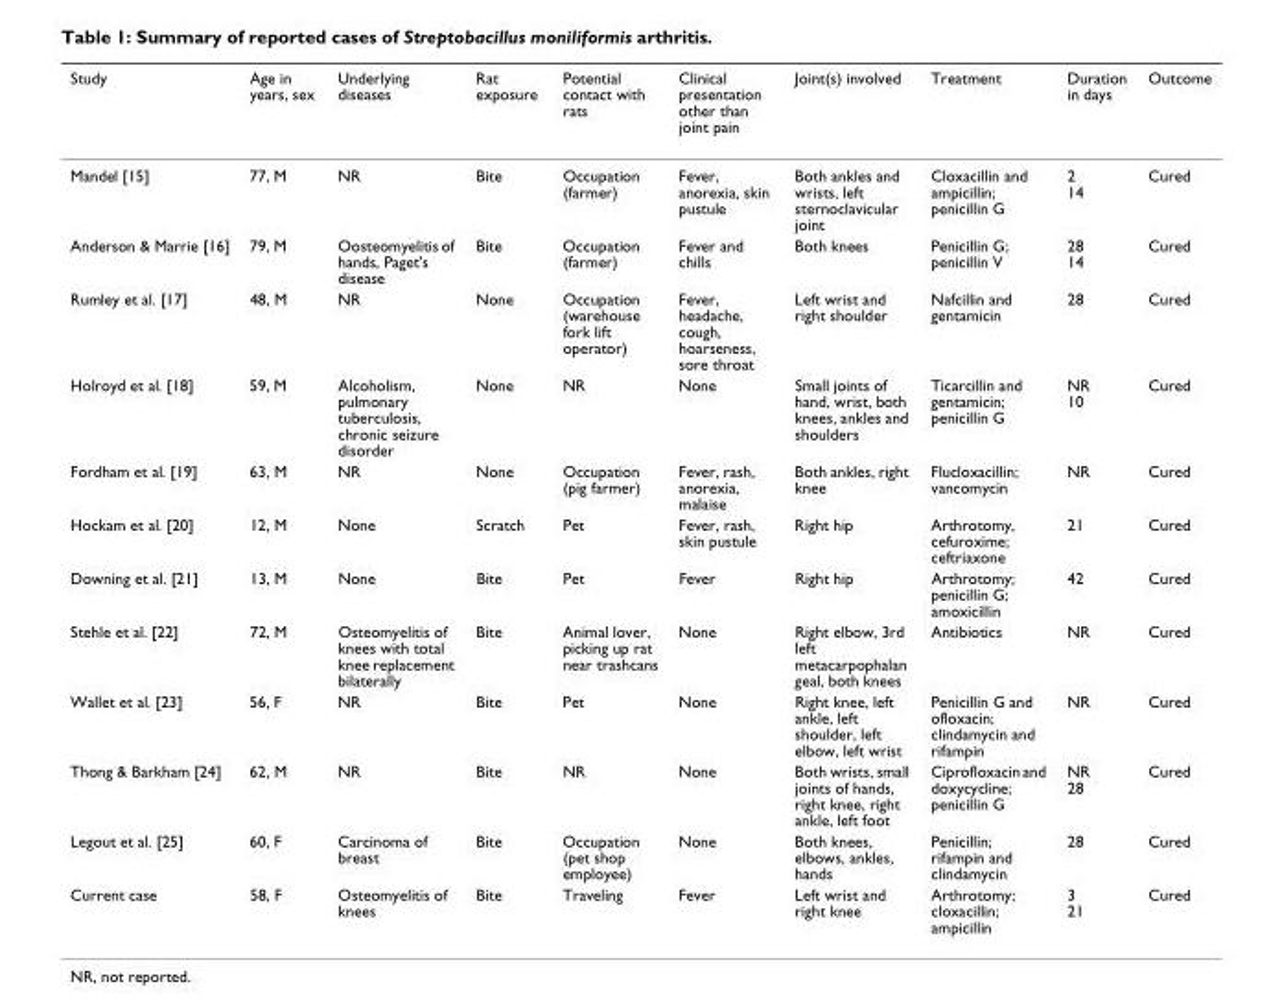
<table><thead><tr><td>Study</td><td>Age in years, sex</td><td>Underlying diseases</td><td>Rat exposure</td><td>Potential contact with rats</td><td>Clinical presentation other than joint pain</td><td>Joint(s) involved</td><td>Treatment</td><td>Duration in days</td><td>Outcome</td></tr></thead><tbody><tr><td>Mandel [15]</td><td>77, M</td><td>NR</td><td>Bite</td><td>Occupation (farmer)</td><td>Fever, anorexia, skin pustule</td><td>Both ankles and wrists, left sternoclavicular joint</td><td>Cloxacillin and ampicillin; penicillin G</td><td>2 14</td><td>Cured</td></tr><tr><td>Anderson &amp; Marrie [16]</td><td>79, M</td><td>Oosteomyelitis of hands, Paget&#x27;s disease</td><td>Bite</td><td>Occupation (farmer)</td><td>Fever and chills</td><td>Both knees</td><td>Penicillin G; penicillin V</td><td>28 14</td><td>Cured</td></tr><tr><td>Rumley et al. [17]</td><td>48, M</td><td>NR</td><td>None</td><td>Occupation (warehouse fork lift operator)</td><td>Fever, headache, cough, hoarseness, sore throat</td><td>Left wrist and right shoulder</td><td>Nafcillin and gentamicin</td><td>28</td><td>Cured</td></tr><tr><td>Holroyd et al. [18]</td><td>59, M</td><td>Alcoholism, pulmonary tuberculosis, chronic seizure disorder</td><td>None</td><td>NR</td><td>None</td><td>Small joints of hand, wrist, both knees, ankles and shoulders</td><td>Ticarcillin and gentamicin; penicillin G</td><td>NR 10</td><td>Cured</td></tr><tr><td>Fordham et al. [19]</td><td>63, M</td><td>NR</td><td>None</td><td>Occupation (pig farmer)</td><td>Fever, rash, anorexia, malaise</td><td>Both ankles, right knee</td><td>Flucloxacillin; vancomycin</td><td>NR</td><td>Cured</td></tr><tr><td>Hockam et al. [20]</td><td>12, M</td><td>None</td><td>Scratch</td><td>Pet</td><td>Fever, rash, skin pustule</td><td>Right hip</td><td>Arthrotomy, cefuroxime; ceftriaxone</td><td>21</td><td>Cured</td></tr><tr><td>Downing et al. [21]</td><td>13, M</td><td>None</td><td>Bite</td><td>Pet</td><td>Fever</td><td>Right hip</td><td>Arthrotomy; penicillin G; amoxicillin</td><td>42</td><td>Cured</td></tr><tr><td>Stehle et al. [22]</td><td>72, M</td><td>Osteomyelitis of knees with total knee replacement bilaterally</td><td>Bite</td><td>Animal lover, picking up rat near trashcans</td><td>None</td><td>Right elbow, 3rd left metacarpophalan geal, both knees</td><td>Antibiotics</td><td>NR</td><td>Cured</td></tr><tr><td>Wallet et al. [23]</td><td>56, F</td><td>NR</td><td>Bite</td><td>Pet</td><td>None</td><td>Right knee, left ankle, left shoulder, left elbow, left wrist</td><td>Penicillin G and ofloxacin; clindamycin and rifampin</td><td>NR</td><td>Cured</td></tr><tr><td>Thong &amp; Barkham [24]</td><td>62, M</td><td>NR</td><td>Bite</td><td>NR</td><td>None</td><td>Both wrists, small joints of hands, right knee, right ankle, left foot</td><td>Ciprofloxacin and doxycycline; penicillin G</td><td>NR 28</td><td>Cured</td></tr><tr><td>Legout et al. [25]</td><td>60, F</td><td>Carcinoma of breast</td><td>Bite</td><td>Occupation (pet shop employee)</td><td>None</td><td>Both knees, elbows, ankles, hands</td><td>Penicillin; rifampin and clindamycin</td><td>28</td><td>Cured</td></tr><tr><td>Current case</td><td>58, F</td><td>Osteomyelitis of knees</td><td>Bite</td><td>Traveling</td><td>Fever</td><td>Left wrist and right knee</td><td>Arthrotomy; cloxacillin; ampicillin</td><td>3 21</td><td>Cured</td></tr></tbody></table>